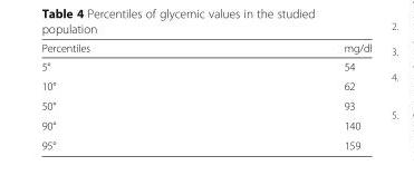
<table><thead><tr><td>Percentiles</td><td>mg/dl</td></tr></thead><tbody><tr><td>5°</td><td>54</td></tr><tr><td>10°</td><td>62</td></tr><tr><td>50°</td><td>93</td></tr><tr><td>90°</td><td>140</td></tr><tr><td>95°</td><td>159</td></tr></tbody></table>